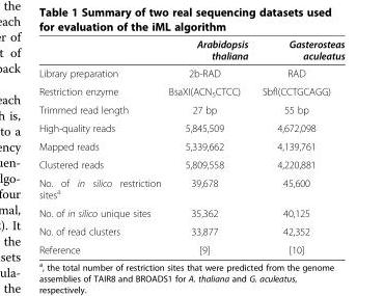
<table><thead><tr><td></td><td>Arabidopsis thaliana</td><td>Gasterosteas aculeatus</td></tr></thead><tbody><tr><td>Library preparation</td><td>2b-RAD</td><td>RAD</td></tr><tr><td>Restriction enzyme</td><td>BsaXI(ACN<sub>5</sub>CTCC)</td><td>SbfI(CCTGCAGG)</td></tr><tr><td>Trimmed read length</td><td>27 bp</td><td>55 bp</td></tr><tr><td>High-quality reads</td><td>5,845,509</td><td>4,672,098</td></tr><tr><td>Mapped reads</td><td>5,339,662</td><td>4,139,761</td></tr><tr><td>Clustered reads</td><td>5,809,558</td><td>4,220,881</td></tr><tr><td>No. of in silico restriction sites<sup>a</sup></td><td>39,678</td><td>45,600</td></tr><tr><td>No. of in silico unique sites</td><td>35,362</td><td>40,125</td></tr><tr><td>No. of read clusters</td><td>33,877</td><td>42,352</td></tr><tr><td>Reference</td><td>[9]</td><td>[10]</td></tr></tbody></table>